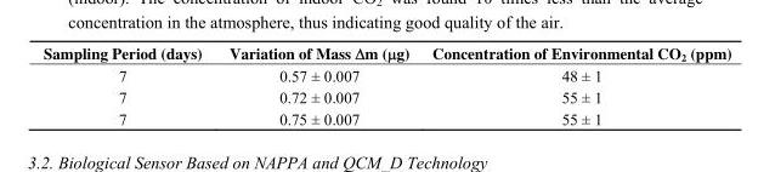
<table><thead><tr><td>Sampling Period (days)</td><td>Variation of Mass Δm (μg)</td><td>Concentration of Environmental CO<sub>2</sub> (ppm)</td></tr></thead><tbody><tr><td>7</td><td>0.57 ± 0.007</td><td>48 ± 1</td></tr><tr><td>7</td><td>0.72 ± 0.007</td><td>55 ± 1</td></tr><tr><td>7</td><td>0.75 ± 0.007</td><td>55 ± 1</td></tr></tbody></table>